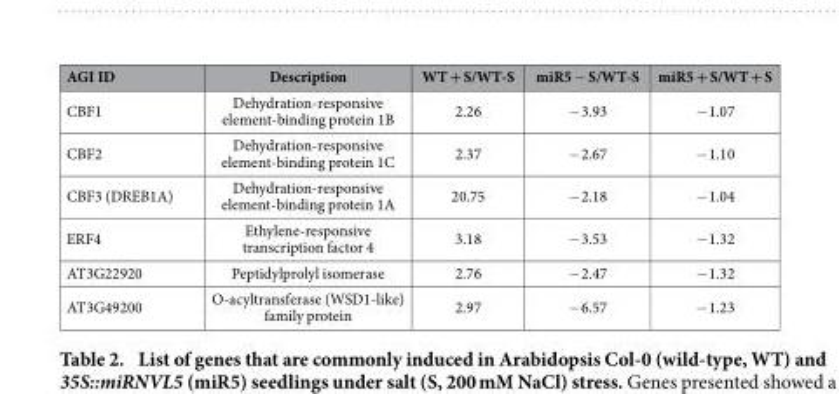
<table><thead><tr><td>AGI ID</td><td>Description</td><td>WT + S/WT-S</td><td>miR5 − S/WT-S</td><td>miR5 + S/WT + S</td></tr></thead><tbody><tr><td>CBF1</td><td>Dehydration-responsive element-binding protein 1B</td><td>2.26</td><td>− 3.93</td><td>− 1.07</td></tr><tr><td>CBF2</td><td>Dehydration-responsive element-binding protein 1C</td><td>2.37</td><td>− 2.67</td><td>− 1.10</td></tr><tr><td>CBF3 (DREB1A)</td><td>Dehydration-responsive element-binding protein 1A</td><td>20.75</td><td>− 2.18</td><td>− 1.04</td></tr><tr><td>ERF4</td><td>Ethylene-responsive transcription factor 4</td><td>3.18</td><td>− 3.53</td><td>− 1.32</td></tr><tr><td>AT3G22920</td><td>Peptidylprolyl isomerase</td><td>2.76</td><td>− 2.47</td><td>− 1.32</td></tr><tr><td>AT3G49200</td><td>O-acyltransferase (WSD1-like) family protein</td><td>2.97</td><td>− 6.57</td><td>− 1.23</td></tr></tbody></table>